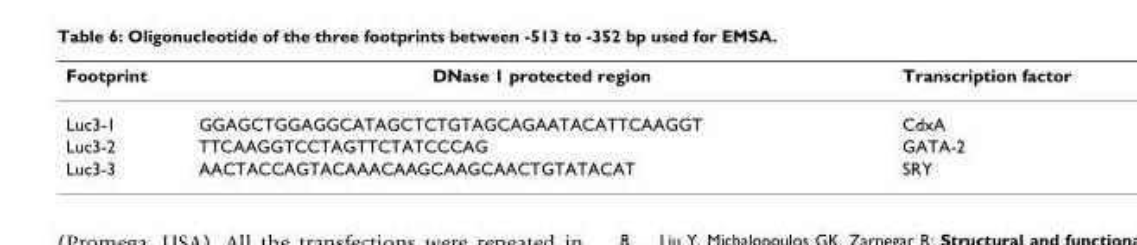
<table><thead><tr><td>Footprint</td><td>DNase 1 protected region</td><td>Transcription factor</td></tr></thead><tbody><tr><td>Luc3-1</td><td>GGAGCTGGAGGCATAGCTCTGTAGCAGAATACATTCAAGGT</td><td>CdxA</td></tr><tr><td>Luc3-2</td><td>TTCAAGGTCCTAGTTCTATCCCAG</td><td>GATA-2</td></tr><tr><td>Luc3-3</td><td>AACTACCAGTACAAACAAGCAAGCAACTGTATACAT</td><td>SRY</td></tr></tbody></table>